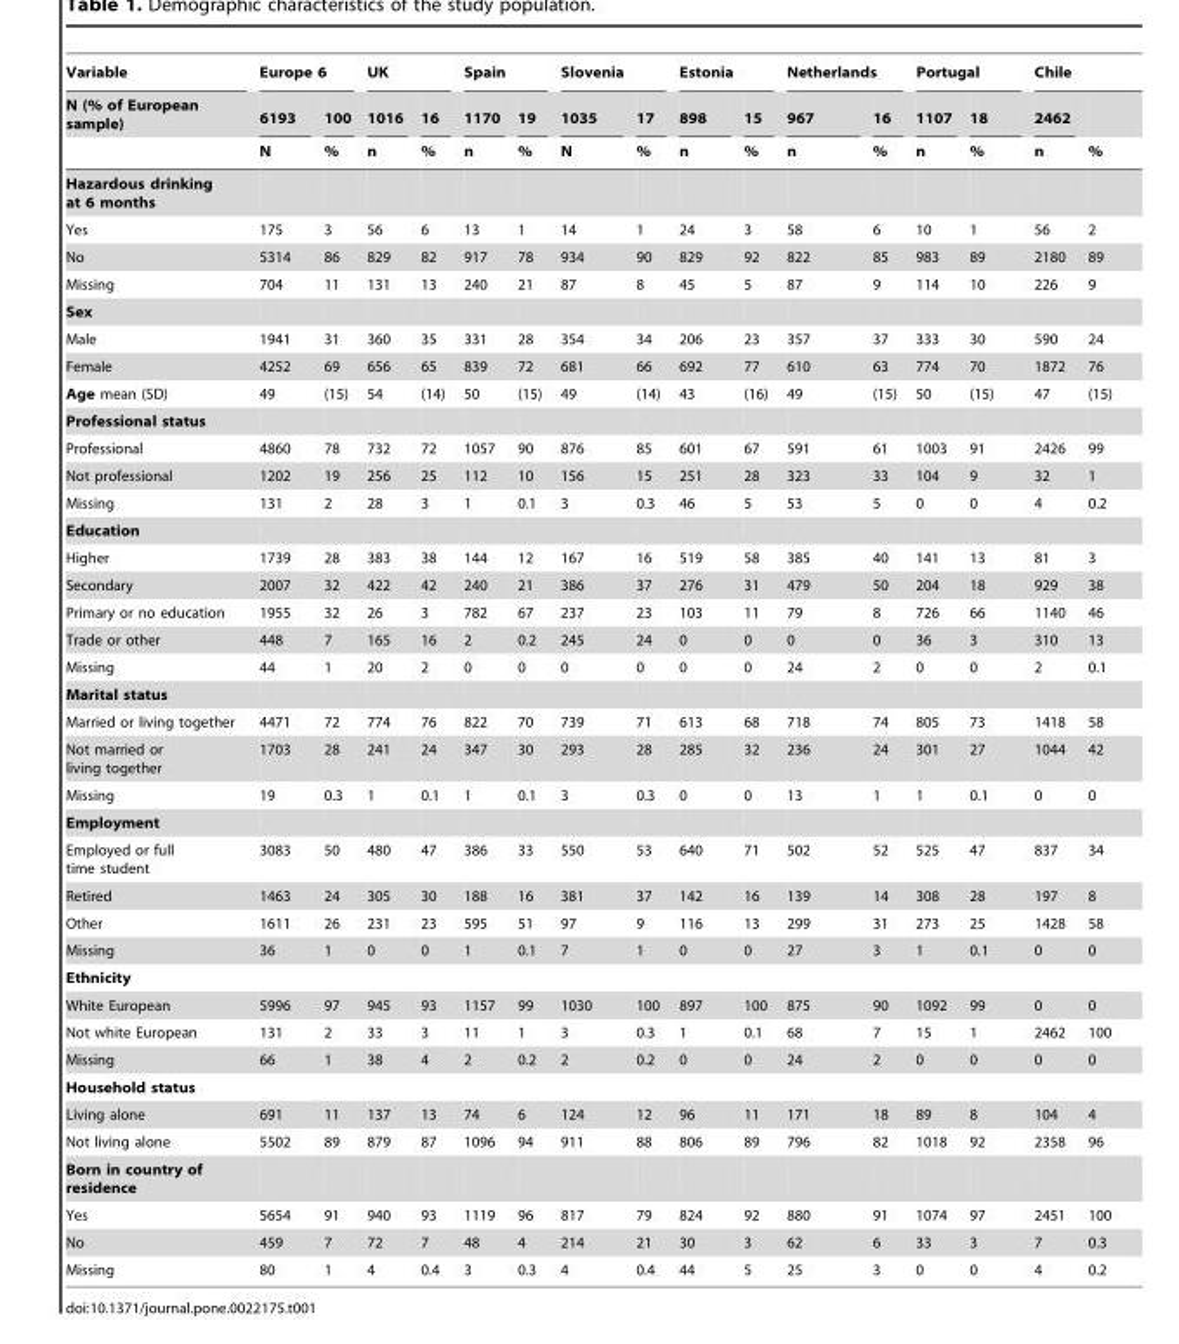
<table><thead><tr><td rowspan="3">Variable N (% of European sample)</td><td colspan="2">Europe 6</td><td colspan="2">UK</td><td colspan="2">Spain</td><td colspan="2">Slovenia</td><td colspan="2">Estonia</td><td colspan="2">Netherlands</td><td colspan="2">Portugal</td><td colspan="2">Chile</td></tr><tr><td rowspan="2">6193 N</td><td rowspan="2">100 %</td><td rowspan="2">1016 n</td><td rowspan="2">16 %</td><td rowspan="2">1170 n</td><td rowspan="2">19 %</td><td rowspan="2">1035 N</td><td rowspan="2">17 %</td><td rowspan="2">898 n</td><td rowspan="2">15 %</td><td rowspan="2">967 n</td><td rowspan="2">16 %</td><td rowspan="2">1107 n</td><td rowspan="2">18 %</td><td rowspan="2">2462 n</td><td rowspan="2">%</td></tr><tr></tr></thead><tbody><tr><td colspan="17">Hazardous drinking at 6 months</td></tr><tr><td>Yes</td><td>175</td><td>3</td><td>56</td><td>6</td><td>13</td><td>1</td><td>14</td><td>1</td><td>24</td><td>3</td><td>58</td><td>6</td><td>10</td><td>1</td><td>56</td><td>2</td></tr><tr><td>No</td><td>5314</td><td>86</td><td>829</td><td>82</td><td>917</td><td>78</td><td>934</td><td>90</td><td>829</td><td>92</td><td>822</td><td>85</td><td>983</td><td>89</td><td>2180</td><td>89</td></tr><tr><td>Missing</td><td>704</td><td>11</td><td>131</td><td>13</td><td>240</td><td>21</td><td>87</td><td>8</td><td>45</td><td>5</td><td>87</td><td>9</td><td>114</td><td>10</td><td>226</td><td>9</td></tr><tr><td colspan="17">Sex</td></tr><tr><td>Male</td><td>1941</td><td>31</td><td>360</td><td>35</td><td>331</td><td>28</td><td>354</td><td>34</td><td>206</td><td>23</td><td>357</td><td>37</td><td>333</td><td>30</td><td>590</td><td>24</td></tr><tr><td>Female</td><td>4252</td><td>69</td><td>656</td><td>65</td><td>839</td><td>72</td><td>681</td><td>66</td><td>692</td><td>77</td><td>610</td><td>63</td><td>774</td><td>70</td><td>1872</td><td>76</td></tr><tr><td>Age mean (SD)</td><td>49</td><td>(15)</td><td>54</td><td>(14)</td><td>50</td><td>(15)</td><td>49</td><td>(14)</td><td>43</td><td>(16)</td><td>49</td><td>(15)</td><td>50</td><td>(15)</td><td>47</td><td>(15)</td></tr><tr><td colspan="17">Professional status</td></tr><tr><td>Professional</td><td>4860</td><td>78</td><td>732</td><td>72</td><td>1057</td><td>90</td><td>876</td><td>85</td><td>601</td><td>67</td><td>591</td><td>61</td><td>1003</td><td>91</td><td>2426</td><td>99</td></tr><tr><td>Not professional</td><td>1202</td><td>19</td><td>256</td><td>25</td><td>112</td><td>10</td><td>156</td><td>15</td><td>251</td><td>28</td><td>323</td><td>33</td><td>104</td><td>9</td><td>32</td><td>1</td></tr><tr><td>Missing</td><td>131</td><td>2</td><td>28</td><td>3</td><td>1</td><td>0.1</td><td>3</td><td>0.3</td><td>46</td><td>5</td><td>53</td><td>5</td><td>0</td><td>0</td><td>4</td><td>0.2</td></tr><tr><td colspan="17">Education</td></tr><tr><td>Higher</td><td>1739</td><td>28</td><td>383</td><td>38</td><td>144</td><td>12</td><td>167</td><td>16</td><td>519</td><td>58</td><td>385</td><td>40</td><td>141</td><td>13</td><td>81</td><td>3</td></tr><tr><td>Secondary</td><td>2007</td><td>32</td><td>422</td><td>42</td><td>240</td><td>21</td><td>386</td><td>37</td><td>276</td><td>31</td><td>479</td><td>50</td><td>204</td><td>18</td><td>929</td><td>38</td></tr><tr><td>Primary or no education</td><td>1955</td><td>32</td><td>26</td><td>3</td><td>782</td><td>67</td><td>237</td><td>23</td><td>103</td><td>11</td><td>79</td><td>8</td><td>726</td><td>66</td><td>1140</td><td>46</td></tr><tr><td>Trade or other</td><td>448</td><td>7</td><td>165</td><td>16</td><td>2</td><td>0.2</td><td>245</td><td>24</td><td>0</td><td>0</td><td>0</td><td>0</td><td>36</td><td>3</td><td>310</td><td>13</td></tr><tr><td>Missing</td><td>44</td><td>1</td><td>20</td><td>2</td><td>0</td><td>0</td><td>0</td><td>0</td><td>0</td><td>0</td><td>24</td><td>2</td><td>0</td><td>0</td><td>2</td><td>0.1</td></tr><tr><td colspan="17">Marital status</td></tr><tr><td>Married or living together</td><td>4471</td><td>72</td><td>774</td><td>76</td><td>822</td><td>70</td><td>739</td><td>71</td><td>613</td><td>68</td><td>718</td><td>74</td><td>805</td><td>73</td><td>1418</td><td>58</td></tr><tr><td>Not married or living together</td><td>1703</td><td>28</td><td>241</td><td>24</td><td>347</td><td>30</td><td>293</td><td>28</td><td>285</td><td>32</td><td>236</td><td>24</td><td>301</td><td>27</td><td>1044</td><td>42</td></tr><tr><td>Missing</td><td>19</td><td>0.3</td><td>1</td><td>0.1</td><td>1</td><td>0.1</td><td>3</td><td>0.3</td><td>0</td><td>0</td><td>13</td><td>1</td><td>1</td><td>0.1</td><td>0</td><td>0</td></tr><tr><td colspan="17">Employment</td></tr><tr><td>Employed or full time student</td><td>3083</td><td>50</td><td>480</td><td>47</td><td>386</td><td>33</td><td>550</td><td>53</td><td>640</td><td>71</td><td>502</td><td>52</td><td>525</td><td>47</td><td>837</td><td>34</td></tr><tr><td>Retired</td><td>1463</td><td>24</td><td>305</td><td>30</td><td>188</td><td>16</td><td>381</td><td>37</td><td>142</td><td>16</td><td>139</td><td>14</td><td>308</td><td>28</td><td>197</td><td>8</td></tr><tr><td>Other</td><td>1611</td><td>26</td><td>231</td><td>23</td><td>595</td><td>51</td><td>97</td><td>9</td><td>116</td><td>13</td><td>299</td><td>31</td><td>273</td><td>25</td><td>1428</td><td>58</td></tr><tr><td>Missing</td><td>36</td><td>1</td><td>0</td><td>0</td><td>1</td><td>0.1</td><td>7</td><td>1</td><td>0</td><td>0</td><td>27</td><td>3</td><td>1</td><td>0.1</td><td>0</td><td>0</td></tr><tr><td colspan="17">Ethnicity</td></tr><tr><td>White European</td><td>5996</td><td>97</td><td>945</td><td>93</td><td>1157</td><td>99</td><td>1030</td><td>100</td><td>897</td><td>100</td><td>875</td><td>90</td><td>1092</td><td>99</td><td>0</td><td>0</td></tr><tr><td>Not white European</td><td>131</td><td>2</td><td>33</td><td>3</td><td>11</td><td>1</td><td>3</td><td>0.3</td><td>1</td><td>0.1</td><td>68</td><td>7</td><td>15</td><td>1</td><td>2462</td><td>100</td></tr><tr><td>Missing</td><td>66</td><td>1</td><td>38</td><td>4</td><td>2</td><td>0.2</td><td>2</td><td>0.2</td><td>0</td><td>0</td><td>24</td><td>2</td><td>0</td><td>0</td><td>0</td><td>0</td></tr><tr><td colspan="17">Household status</td></tr><tr><td>Living alone</td><td>691</td><td>11</td><td>137</td><td>13</td><td>74</td><td>6</td><td>124</td><td>12</td><td>96</td><td>11</td><td>171</td><td>18</td><td>89</td><td>8</td><td>104</td><td>4</td></tr><tr><td>Not living alone</td><td>5502</td><td>89</td><td>879</td><td>87</td><td>1096</td><td>94</td><td>911</td><td>88</td><td>806</td><td>89</td><td>796</td><td>82</td><td>1018</td><td>92</td><td>2358</td><td>96</td></tr><tr><td colspan="17">Born in country of residence</td></tr><tr><td>Yes</td><td>5654</td><td>91</td><td>940</td><td>93</td><td>1119</td><td>96</td><td>817</td><td>79</td><td>824</td><td>92</td><td>880</td><td>91</td><td>1074</td><td>97</td><td>2451</td><td>100</td></tr><tr><td>No</td><td>459</td><td>7</td><td>72</td><td>7</td><td>48</td><td>4</td><td>214</td><td>21</td><td>30</td><td>3</td><td>62</td><td>6</td><td>33</td><td>3</td><td>7</td><td>0.3</td></tr><tr><td>Missing</td><td>80</td><td>1</td><td>4</td><td>0.4</td><td>3</td><td>0.3</td><td>4</td><td>0.4</td><td>44</td><td>5</td><td>25</td><td>3</td><td>0</td><td>0</td><td>4</td><td>0.2</td></tr></tbody></table>